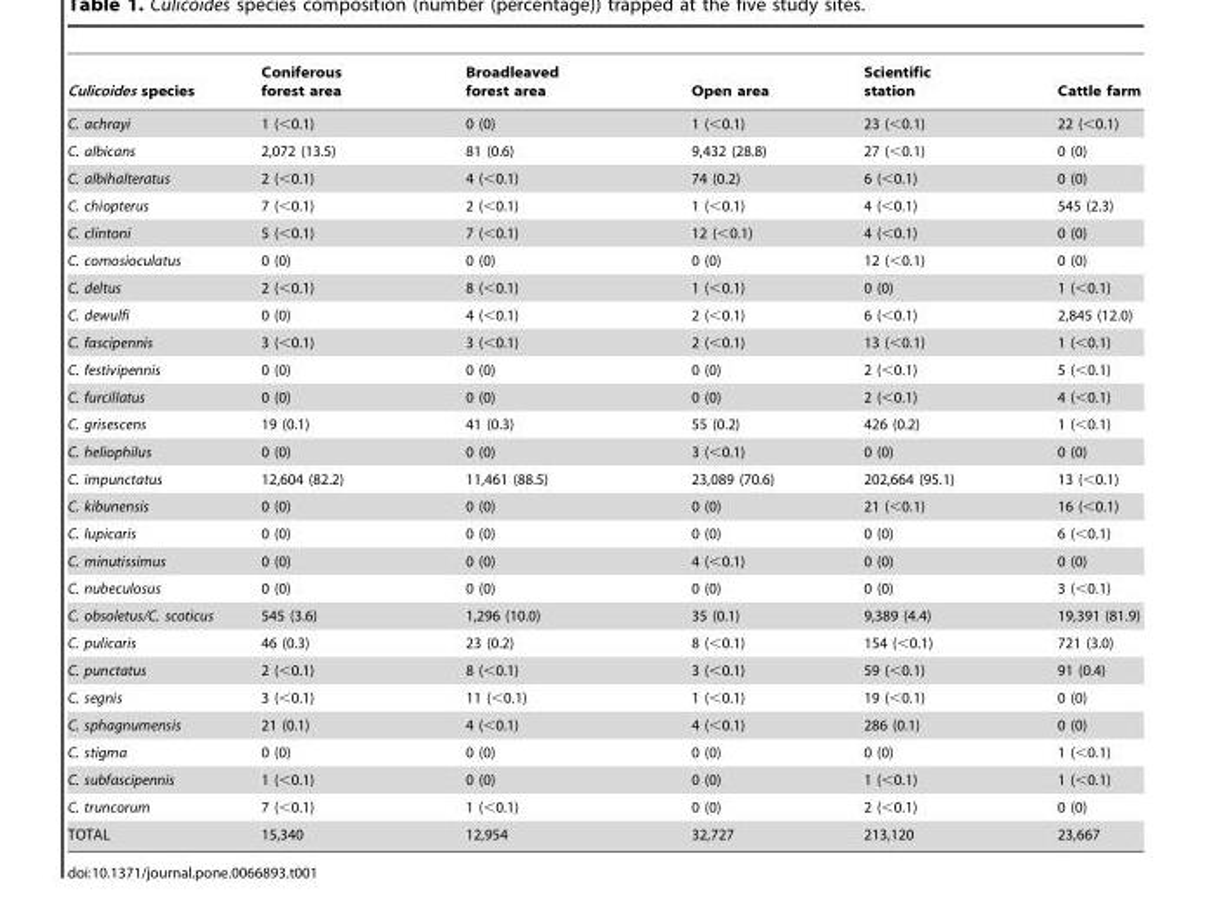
<table><thead><tr><td>Culicoides species</td><td>Coniferous forest area</td><td>Broadleaved forest area</td><td>Open area</td><td>Scientific station</td><td>Cattle farm</td></tr></thead><tbody><tr><td>C. achrayi</td><td>1 (&lt;0.1)</td><td>0 (0)</td><td>1 (&lt;0.1)</td><td>23 (&lt;0.1)</td><td>22 (&lt;0.1)</td></tr><tr><td>C. albicans</td><td>2,072 (13.5)</td><td>81 (0.6)</td><td>9,432 (28.8)</td><td>27 (&lt;0.1)</td><td>0 (0)</td></tr><tr><td>C. albihalteratus</td><td>2 (&lt;0.1)</td><td>4 (&lt;0.1)</td><td>74 (0.2)</td><td>6 (&lt;0.1)</td><td>0 (0)</td></tr><tr><td>C. chiopterus</td><td>7 (&lt;0.1)</td><td>2 (&lt;0.1)</td><td>1 (&lt;0.1)</td><td>4 (&lt;0.1)</td><td>545 (2.3)</td></tr><tr><td>C. clintoni</td><td>5 (&lt;0.1)</td><td>7 (&lt;0.1)</td><td>12 (&lt;0.1)</td><td>4 (&lt;0.1)</td><td>0 (0)</td></tr><tr><td>C. comosioculatus</td><td>0 (0)</td><td>0 (0)</td><td>0 (0)</td><td>12 (&lt;0.1)</td><td>0 (0)</td></tr><tr><td>C. deltus</td><td>2 (&lt;0.1)</td><td>8 (&lt;0.1)</td><td>1 (&lt;0.1)</td><td>0 (0)</td><td>1 (&lt;0.1)</td></tr><tr><td>C. dewulfi</td><td>0 (0)</td><td>4 (&lt;0.1)</td><td>2 (&lt;0.1)</td><td>6 (&lt;0.1)</td><td>2,845 (12.0)</td></tr><tr><td>C. fascipennis</td><td>3 (&lt;0.1)</td><td>3 (&lt;0.1)</td><td>2 (&lt;0.1)</td><td>13 (&lt;0.1)</td><td>1 (&lt;0.1)</td></tr><tr><td>C. festivipennis</td><td>0 (0)</td><td>0 (0)</td><td>0 (0)</td><td>2 (&lt;0.1)</td><td>5 (&lt;0.1)</td></tr><tr><td>C. furcillatus</td><td>0 (0)</td><td>0 (0)</td><td>0 (0)</td><td>2 (&lt;0.1)</td><td>4 (&lt;0.1)</td></tr><tr><td>C. grisescens</td><td>19 (0.1)</td><td>41 (0.3)</td><td>55 (0.2)</td><td>426 (0.2)</td><td>1 (&lt;0.1)</td></tr><tr><td>C. heliophilus</td><td>0 (0)</td><td>0 (0)</td><td>3 (&lt;0.1)</td><td>0 (0)</td><td>0 (0)</td></tr><tr><td>C. impunctatus</td><td>12,604 (82.2)</td><td>11,461 (88.5)</td><td>23,089 (70.6)</td><td>202,664 (95.1)</td><td>13 (&lt;0.1)</td></tr><tr><td>C. kibunensis</td><td>0 (0)</td><td>0 (0)</td><td>0 (0)</td><td>21 (&lt;0.1)</td><td>16 (&lt;0.1)</td></tr><tr><td>C. lupicaris</td><td>0 (0)</td><td>0 (0)</td><td>0 (0)</td><td>0 (0)</td><td>6 (&lt;0.1)</td></tr><tr><td>C. minutissimus</td><td>0 (0)</td><td>0 (0)</td><td>4 (&lt;0.1)</td><td>0 (0)</td><td>0 (0)</td></tr><tr><td>C. nubeculosus</td><td>0 (0)</td><td>0 (0)</td><td>0 (0)</td><td>0 (0)</td><td>3 (&lt;0.1)</td></tr><tr><td>C. obsoletus/C. scoticus</td><td>545 (3.6)</td><td>1,296 (10.0)</td><td>35 (0.1)</td><td>9,389 (4.4)</td><td>19,391 (81.9)</td></tr><tr><td>C. pulicaris</td><td>46 (0.3)</td><td>23 (0.2)</td><td>8 (&lt;0.1)</td><td>154 (&lt;0.1)</td><td>721 (3.0)</td></tr><tr><td>C. punctatus</td><td>2 (&lt;0.1)</td><td>8 (&lt;0.1)</td><td>3 (&lt;0.1)</td><td>59 (&lt;0.1)</td><td>91 (0.4)</td></tr><tr><td>C. segnis</td><td>3 (&lt;0.1)</td><td>11 (&lt;0.1)</td><td>1 (&lt;0.1)</td><td>19 (&lt;0.1)</td><td>0 (0)</td></tr><tr><td>C. sphagnumensis</td><td>21 (0.1)</td><td>4 (&lt;0.1)</td><td>4 (&lt;0.1)</td><td>286 (0.1)</td><td>0 (0)</td></tr><tr><td>C. stigma</td><td>0 (0)</td><td>0 (0)</td><td>0 (0)</td><td>0 (0)</td><td>1 (&lt;0.1)</td></tr><tr><td>C. subfascipennis</td><td>1 (&lt;0.1)</td><td>0 (0)</td><td>0 (0)</td><td>1 (&lt;0.1)</td><td>1 (&lt;0.1)</td></tr><tr><td>C. truncorum</td><td>7 (&lt;0.1)</td><td>1 (&lt;0.1)</td><td>0 (0)</td><td>2 (&lt;0.1)</td><td>0 (0)</td></tr><tr><td>TOTAL</td><td>15,340</td><td>12,954</td><td>32,727</td><td>213,120</td><td>23,667</td></tr></tbody></table>